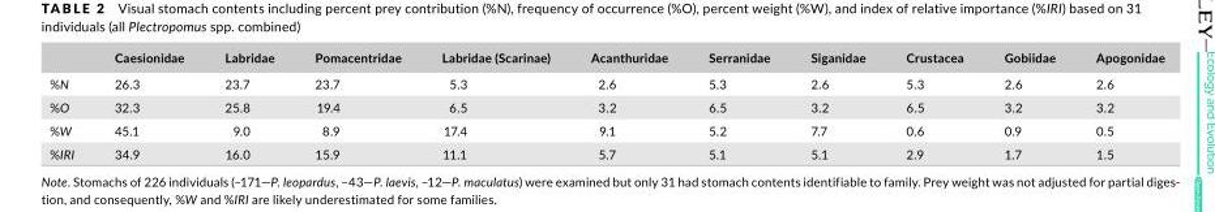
<table><thead><tr><td></td><td>Caesionidae</td><td>Labridae</td><td>Pomacentridae</td><td>Labridae (Scarinae)</td><td>Acanthuridae</td><td>Serranidae</td><td>Siganidae</td><td>Crustacea</td><td>Gobiidae</td><td>Apogonidae</td></tr></thead><tbody><tr><td>%N</td><td>26.3</td><td>23.7</td><td>23.7</td><td>5.3</td><td>2.6</td><td>5.3</td><td>2.6</td><td>5.3</td><td>2.6</td><td>2.6</td></tr><tr><td>%O</td><td>32.3</td><td>25.8</td><td>19.4</td><td>6.5</td><td>3.2</td><td>6.5</td><td>3.2</td><td>6.5</td><td>3.2</td><td>3.2</td></tr><tr><td>%W</td><td>45.1</td><td>9.0</td><td>8.9</td><td>17.4</td><td>9.1</td><td>5.2</td><td>7.7</td><td>0.6</td><td>0.9</td><td>0.5</td></tr><tr><td>%IRI</td><td>34.9</td><td>16.0</td><td>15.9</td><td>11.1</td><td>5.7</td><td>5.1</td><td>5.1</td><td>2.9</td><td>1.7</td><td>1.5</td></tr></tbody></table>